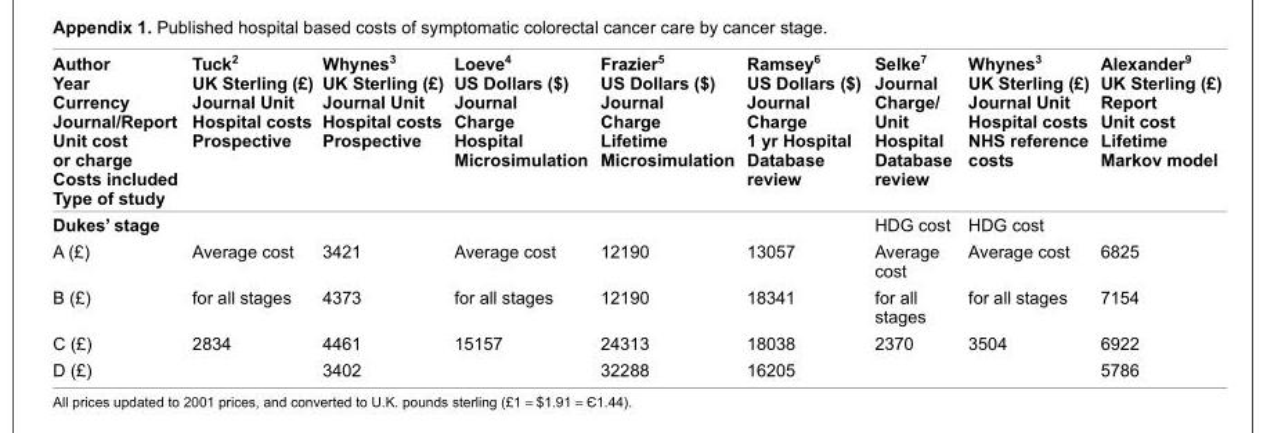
<table><thead><tr><td>Author Year Currency Journal/Report Unit cost or charge Costs included Type of study</td><td>Tuck<sup>2</sup> UK Sterling (£) Journal Unit Hospital costs Prospective</td><td>Whynes<sup>3</sup> UK Sterling (£) Journal Unit Hospital costs Prospective</td><td>Loeve<sup>4</sup> US Dollars ($) Journal Charge Hospital Microsimulation</td><td>Frazier<sup>5</sup> US Dollars ($) Journal Charge Lifetime Microsimulation</td><td>Ramsey<sup>6</sup> US Dollars ($) Journal Charge 1 yr Hospital Database review</td><td>Selke<sup>7</sup> Journal Charge/ Unit Hospital Database review</td><td>Whynes<sup>3</sup> UK Sterling (£) Journal Unit Hospital costs NHS reference costs</td><td>Alexander<sup>9</sup> UK Sterling (£) Report Unit cost Lifetime Markov model</td></tr></thead><tbody><tr><td>Dukes’ stage</td><td></td><td></td><td></td><td></td><td></td><td>HDG cost</td><td>HDG cost</td><td></td></tr><tr><td>A (£)</td><td>Average cost</td><td>3421</td><td>Average cost</td><td>12190</td><td>13057</td><td>Average cost</td><td>Average cost</td><td>6825</td></tr><tr><td>B (£)</td><td>for all stages</td><td>4373</td><td>for all stages</td><td>12190</td><td>18341</td><td>for all stages</td><td>for all stages</td><td>7154</td></tr><tr><td>C (£)</td><td>2834</td><td>4461</td><td>15157</td><td>24313</td><td>18038</td><td>2370</td><td>3504</td><td>6922</td></tr><tr><td>D (£)</td><td></td><td>3402</td><td></td><td>32288</td><td>16205</td><td></td><td></td><td>5786</td></tr></tbody></table>